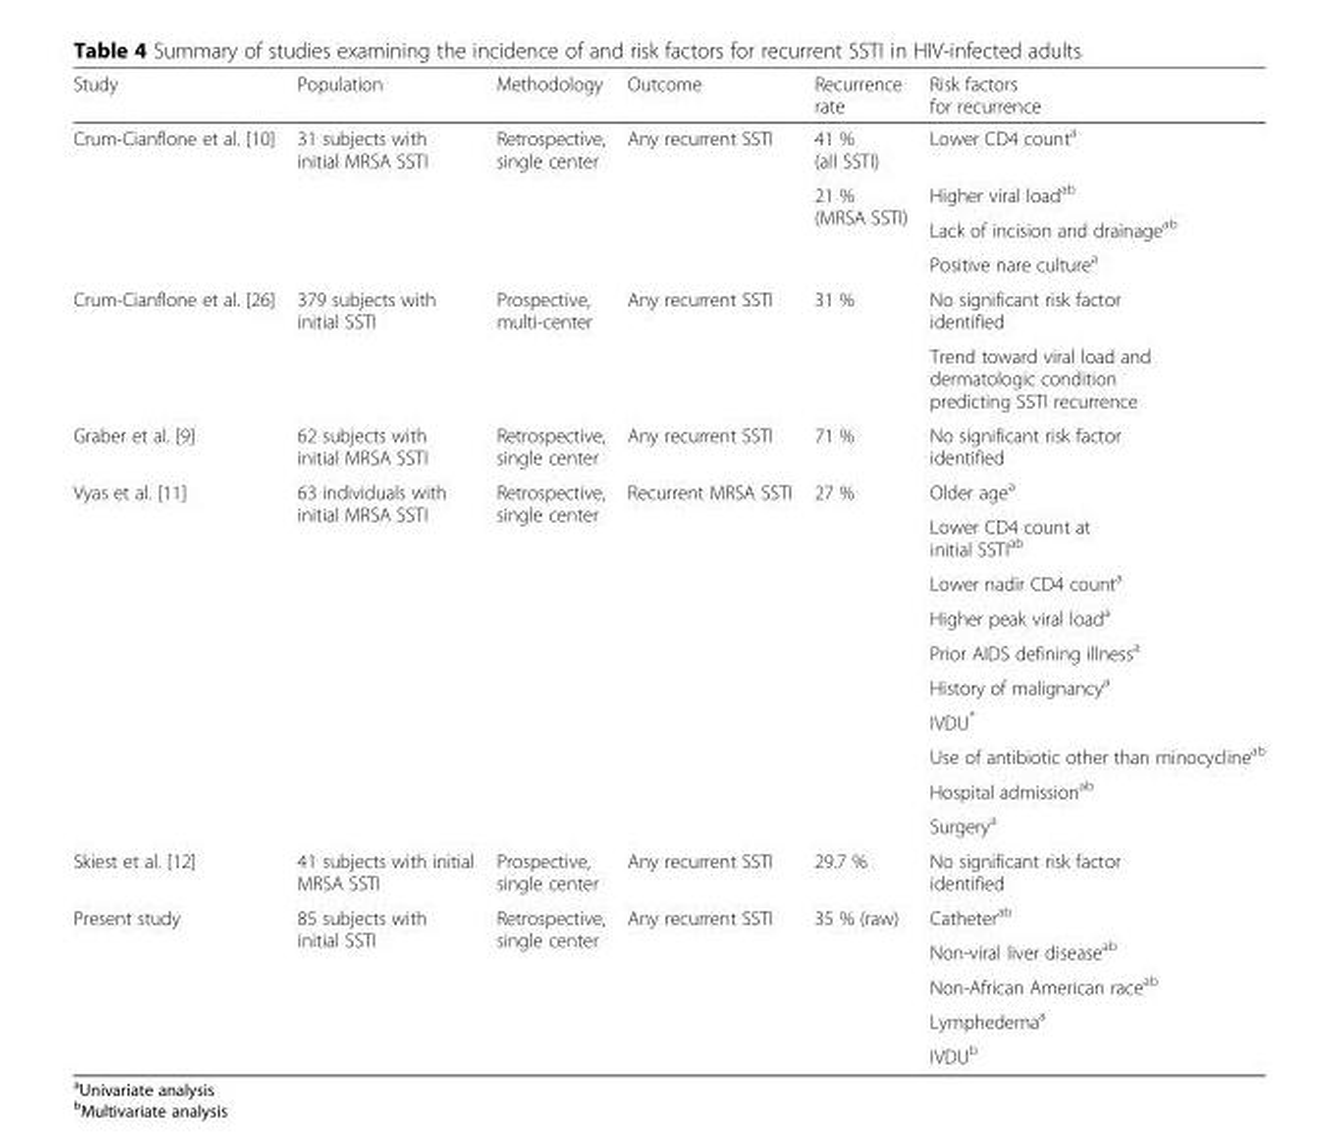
<table><thead><tr><td>Study</td><td>Population</td><td>Methodology</td><td>Outcome</td><td>Recurrence rate</td><td>Risk factors for recurrence</td></tr></thead><tbody><tr><td rowspan="4">Crum-Cianflone et al. [10]</td><td rowspan="4">31 subjects with initial MRSA SSTI</td><td rowspan="4">Retrospective, single center</td><td rowspan="4">Any recurrent SSTI</td><td>41 % (all SSTI)</td><td>Lower CD4 count<sup>a</sup></td></tr><tr><td rowspan="3">21 % (MRSA SSTI)</td><td>Higher viral load<sup>ab</sup></td></tr><tr><td>Lack of incision and drainage<sup>ab</sup></td></tr><tr><td>Positive nare culture<sup>a</sup></td></tr><tr><td rowspan="2">Crum-Cianflone et al. [26]</td><td rowspan="2">379 subjects with initial SSTI</td><td rowspan="2">Prospective, multi-center</td><td rowspan="2">Any recurrent SSTI</td><td rowspan="2">31 %</td><td>No significant risk factor identified</td></tr><tr><td>Trend toward viral load and dermatologic condition predicting SSTI recurrence</td></tr><tr><td>Graber et al. [9]</td><td>62 subjects with initial MRSA SSTI</td><td>Retrospective, single center</td><td>Any recurrent SSTI</td><td>71 %</td><td>No significant risk factor identified</td></tr><tr><td rowspan="10">Vyas et al. [11]</td><td rowspan="10">63 individuals with initial MRSA SSTI</td><td rowspan="10">Retrospective, single center</td><td rowspan="10">Recurrent MRSA SSTI</td><td rowspan="10">27 %</td><td>Older age<sup>a</sup></td></tr><tr><td>Lower CD4 count at initial SSTI<sup>ab</sup></td></tr><tr><td>Lower nadir CD4 count<sup>a</sup></td></tr><tr><td>Higher peak viral load<sup>a</sup></td></tr><tr><td>Prior AIDS defining illness<sup>a</sup></td></tr><tr><td>History of malignancy<sup>a</sup></td></tr><tr><td>IVDU*</td></tr><tr><td>Use of antibiotic other than minocycline<sup>ab</sup></td></tr><tr><td>Hospital admission<sup>ab</sup></td></tr><tr><td>Surgery<sup>a</sup></td></tr><tr><td>Skiest et al. [12]</td><td>41 subjects with initial MRSA SSTI</td><td>Prospective, single center</td><td>Any recurrent SSTI</td><td>29.7 %</td><td>No significant risk factor identified</td></tr><tr><td rowspan="5">Present study</td><td rowspan="5">85 subjects with initial SSTI</td><td rowspan="5">Retrospective, single center</td><td rowspan="5">Any recurrent SSTI</td><td rowspan="5">35 % (raw)</td><td>Catheter<sup>ab</sup></td></tr><tr><td>Non-viral liver disease<sup>ab</sup></td></tr><tr><td>Non-African American race<sup>ab</sup></td></tr><tr><td>Lymphedema<sup>a</sup></td></tr><tr><td>IVDU<sup>b</sup></td></tr></tbody></table>